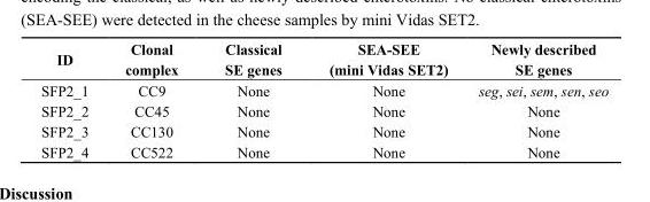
<table><thead><tr><td>ID</td><td>Clonal complex</td><td>Classical SE genes</td><td>SEA-SEE (mini Vidas SET2)</td><td>Newly described SE genes</td></tr></thead><tbody><tr><td>SFP2_1</td><td>CC9</td><td>None</td><td>None</td><td>seg, sei, sem, sen, seo</td></tr><tr><td>SFP2_2</td><td>CC45</td><td>None</td><td>None</td><td>None</td></tr><tr><td>SFP2_3</td><td>CC130</td><td>None</td><td>None</td><td>None</td></tr><tr><td>SFP2_4</td><td>CC522</td><td>None</td><td>None</td><td>None</td></tr></tbody></table>